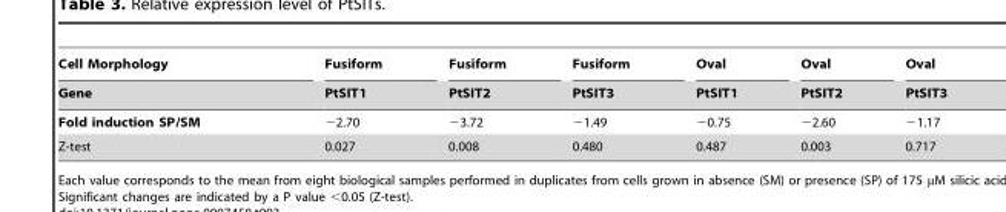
<table><thead><tr><td rowspan="2">Cell Morphology Gene</td><td rowspan="2">Fusiform PtSIT1</td><td rowspan="2">Fusiform PtSIT2</td><td rowspan="2">Fusiform PtSIT3</td><td rowspan="2">Oval PtSIT1</td><td rowspan="2">Oval PtSIT2</td><td rowspan="2">Oval PtSIT3</td></tr><tr></tr></thead><tbody><tr><td>Fold induction SP/SM</td><td>−2.70</td><td>−3.72</td><td>−1.49</td><td>−0.75</td><td>−2.60</td><td>−1.17</td></tr><tr><td>Z-test</td><td>0.027</td><td>0.008</td><td>0.480</td><td>0.487</td><td>0.003</td><td>0.717</td></tr></tbody></table>